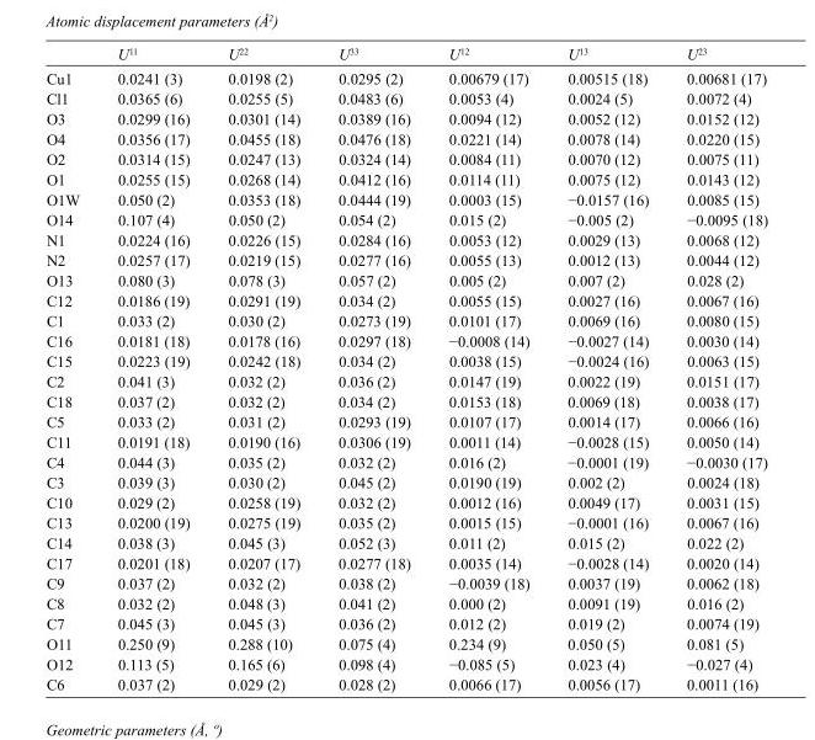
<table><thead><tr><td></td><td>U<sup>11</sup></td><td>U<sup>22</sup></td><td>U<sup>33</sup></td><td>U<sup>12</sup></td><td>U<sup>13</sup></td><td>U<sup>23</sup></td></tr></thead><tbody><tr><td>Cu1</td><td>0.0241 (3)</td><td>0.0198 (2)</td><td>0.0295 (2)</td><td>0.00679 (17)</td><td>0.00515 (18)</td><td>0.00681 (17)</td></tr><tr><td>Cl1</td><td>0.0365 (6)</td><td>0.0255 (5)</td><td>0.0483 (6)</td><td>0.0053 (4)</td><td>0.0024 (5)</td><td>0.0072 (4)</td></tr><tr><td>O3</td><td>0.0299 (16)</td><td>0.0301 (14)</td><td>0.0389 (16)</td><td>0.0094 (12)</td><td>0.0052 (12)</td><td>0.0152 (12)</td></tr><tr><td>O4</td><td>0.0356 (17)</td><td>0.0455 (18)</td><td>0.0476 (18)</td><td>0.0221 (14)</td><td>0.0078 (14)</td><td>0.0220 (15)</td></tr><tr><td>O2</td><td>0.0314 (15)</td><td>0.0247 (13)</td><td>0.0324 (14)</td><td>0.0084 (11)</td><td>0.0070 (12)</td><td>0.0075 (11)</td></tr><tr><td>O1</td><td>0.0255 (15)</td><td>0.0268 (14)</td><td>0.0412 (16)</td><td>0.0114 (11)</td><td>0.0075 (12)</td><td>0.0143 (12)</td></tr><tr><td>O1W</td><td>0.050 (2)</td><td>0.0353 (18)</td><td>0.0444 (19)</td><td>0.0003 (15)</td><td>−0.0157 (16)</td><td>0.0085 (15)</td></tr><tr><td>O14</td><td>0.107 (4)</td><td>0.050 (2)</td><td>0.054 (2)</td><td>0.015 (2)</td><td>−0.005 (2)</td><td>−0.0095 (18)</td></tr><tr><td>N1</td><td>0.0224 (16)</td><td>0.0226 (15)</td><td>0.0284 (16)</td><td>0.0053 (12)</td><td>0.0029 (13)</td><td>0.0068 (12)</td></tr><tr><td>N2</td><td>0.0257 (17)</td><td>0.0219 (15)</td><td>0.0277 (16)</td><td>0.0055 (13)</td><td>0.0012 (13)</td><td>0.0044 (12)</td></tr><tr><td>O13</td><td>0.080 (3)</td><td>0.078 (3)</td><td>0.057 (2)</td><td>0.005 (2)</td><td>0.007 (2)</td><td>0.028 (2)</td></tr><tr><td>C12</td><td>0.0186 (19)</td><td>0.0291 (19)</td><td>0.034 (2)</td><td>0.0055 (15)</td><td>0.0027 (16)</td><td>0.0067 (16)</td></tr><tr><td>C1</td><td>0.033 (2)</td><td>0.030 (2)</td><td>0.0273 (19)</td><td>0.0101 (17)</td><td>0.0069 (16)</td><td>0.0080 (15)</td></tr><tr><td>C16</td><td>0.0181 (18)</td><td>0.0178 (16)</td><td>0.0297 (18)</td><td>−0.0008 (14)</td><td>−0.0027 (14)</td><td>0.0030 (14)</td></tr><tr><td>C15</td><td>0.0223 (19)</td><td>0.0242 (18)</td><td>0.034 (2)</td><td>0.0038 (15)</td><td>−0.0024 (16)</td><td>0.0063 (15)</td></tr><tr><td>C2</td><td>0.041 (3)</td><td>0.032 (2)</td><td>0.036 (2)</td><td>0.0147 (19)</td><td>0.0022 (19)</td><td>0.0151 (17)</td></tr><tr><td>C18</td><td>0.037 (2)</td><td>0.032 (2)</td><td>0.034 (2)</td><td>0.0153 (18)</td><td>0.0069 (18)</td><td>0.0038 (17)</td></tr><tr><td>C5</td><td>0.033 (2)</td><td>0.031 (2)</td><td>0.0293 (19)</td><td>0.0107 (17)</td><td>0.0014 (17)</td><td>0.0066 (16)</td></tr><tr><td>C11</td><td>0.0191 (18)</td><td>0.0190 (16)</td><td>0.0306 (19)</td><td>0.0011 (14)</td><td>−0.0028 (15)</td><td>0.0050 (14)</td></tr><tr><td>C4</td><td>0.044 (3)</td><td>0.035 (2)</td><td>0.032 (2)</td><td>0.016 (2)</td><td>−0.0001 (19)</td><td>−0.0030 (17)</td></tr><tr><td>C3</td><td>0.039 (3)</td><td>0.030 (2)</td><td>0.045 (2)</td><td>0.0190 (19)</td><td>0.002 (2)</td><td>0.0024 (18)</td></tr><tr><td>C10</td><td>0.029 (2)</td><td>0.0258 (19)</td><td>0.032 (2)</td><td>0.0012 (16)</td><td>0.0049 (17)</td><td>0.0031 (15)</td></tr><tr><td>C13</td><td>0.0200 (19)</td><td>0.0275 (19)</td><td>0.035 (2)</td><td>0.0015 (15)</td><td>−0.0001 (16)</td><td>0.0067 (16)</td></tr><tr><td>C14</td><td>0.038 (3)</td><td>0.045 (3)</td><td>0.052 (3)</td><td>0.011 (2)</td><td>0.015 (2)</td><td>0.022 (2)</td></tr><tr><td>C17</td><td>0.0201 (18)</td><td>0.0207 (17)</td><td>0.0277 (18)</td><td>0.0035 (14)</td><td>−0.0028 (14)</td><td>0.0020 (14)</td></tr><tr><td>C9</td><td>0.037 (2)</td><td>0.032 (2)</td><td>0.038 (2)</td><td>−0.0039 (18)</td><td>0.0037 (19)</td><td>0.0062 (18)</td></tr><tr><td>C8</td><td>0.032 (2)</td><td>0.048 (3)</td><td>0.041 (2)</td><td>0.000 (2)</td><td>0.0091 (19)</td><td>0.016 (2)</td></tr><tr><td>C7</td><td>0.045 (3)</td><td>0.045 (3)</td><td>0.036 (2)</td><td>0.012 (2)</td><td>0.019 (2)</td><td>0.0074 (19)</td></tr><tr><td>O11</td><td>0.250 (9)</td><td>0.288 (10)</td><td>0.075 (4)</td><td>0.234 (9)</td><td>0.050 (5)</td><td>0.081 (5)</td></tr><tr><td>O12</td><td>0.113 (5)</td><td>0.165 (6)</td><td>0.098 (4)</td><td>−0.085 (5)</td><td>0.023 (4)</td><td>−0.027 (4)</td></tr><tr><td>C6</td><td>0.037 (2)</td><td>0.029 (2)</td><td>0.028 (2)</td><td>0.0066 (17)</td><td>0.0056 (17)</td><td>0.0011 (16)</td></tr></tbody></table>